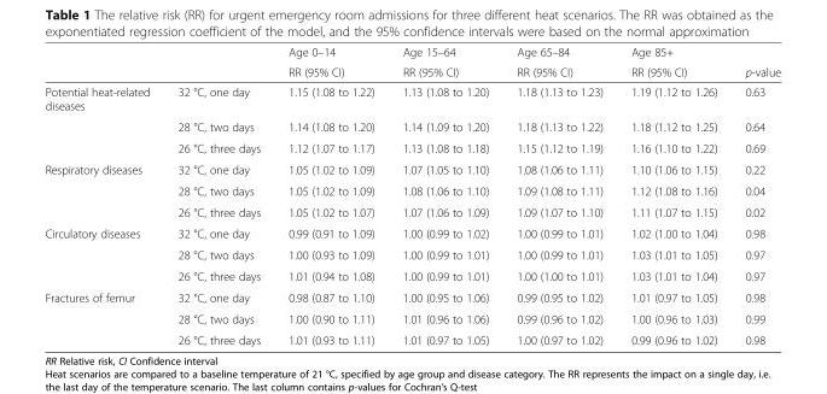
<table><thead><tr><td rowspan="2"></td><td rowspan="2"></td><td rowspan="2">Age 0–14 RR (95% CI)</td><td rowspan="2">Age 15–64 RR (95% CI)</td><td rowspan="2">Age 65–84 RR (95% CI)</td><td rowspan="2">Age 85+ RR (95% CI)</td><td rowspan="2">p-value</td></tr><tr></tr></thead><tbody><tr><td rowspan="3">Potential heat-related diseases</td><td>32 °C, one day</td><td>1.15 (1.08 to 1.22)</td><td>1.13 (1.08 to 1.20)</td><td>1.18 (1.13 to 1.23)</td><td>1.19 (1.12 to 1.26)</td><td>0.63</td></tr><tr><td>28 °C, two days</td><td>1.14 (1.08 to 1.20)</td><td>1.14 (1.09 to 1.20)</td><td>1.18 (1.13 to 1.22)</td><td>1.18 (1.12 to 1.25)</td><td>0.64</td></tr><tr><td>26 °C, three days</td><td>1.12 (1.07 to 1.17)</td><td>1.13 (1.08 to 1.18)</td><td>1.15 (1.12 to 1.19)</td><td>1.16 (1.10 to 1.22)</td><td>0.69</td></tr><tr><td rowspan="3">Respiratory diseases</td><td>32 °C, one day</td><td>1.05 (1.02 to 1.09)</td><td>1.07 (1.05 to 1.10)</td><td>1.08 (1.06 to 1.11)</td><td>1.10 (1.06 to 1.15)</td><td>0.22</td></tr><tr><td>28 °C, two days</td><td>1.05 (1.02 to 1.09)</td><td>1.08 (1.06 to 1.10)</td><td>1.09 (1.08 to 1.11)</td><td>1.12 (1.08 to 1.16)</td><td>0.04</td></tr><tr><td>26 °C, three days</td><td>1.05 (1.02 to 1.07)</td><td>1.07 (1.06 to 1.09)</td><td>1.09 (1.07 to 1.10)</td><td>1.11 (1.07 to 1.15)</td><td>0.02</td></tr><tr><td rowspan="3">Circulatory diseases</td><td>32 °C, one day</td><td>0.99 (0.91 to 1.09)</td><td>1.00 (0.99 to 1.02)</td><td>1.00 (0.99 to 1.01)</td><td>1.02 (1.00 to 1.04)</td><td>0.98</td></tr><tr><td>28 °C, two days</td><td>1.00 (0.93 to 1.09)</td><td>1.00 (0.99 to 1.01)</td><td>1.00 (0.99 to 1.01)</td><td>1.03 (1.01 to 1.05)</td><td>0.97</td></tr><tr><td>26 °C, three days</td><td>1.01 (0.94 to 1.08)</td><td>1.00 (0.99 to 1.01)</td><td>1.00 (1.00 to 1.01)</td><td>1.03 (1.01 to 1.04)</td><td>0.97</td></tr><tr><td rowspan="3">Fractures of femur</td><td>32 °C, one day</td><td>0.98 (0.87 to 1.10)</td><td>1.00 (0.95 to 1.06)</td><td>0.99 (0.95 to 1.02)</td><td>1.01 (0.97 to 1.05)</td><td>0.98</td></tr><tr><td>28 °C, two days</td><td>1.00 (0.90 to 1.11)</td><td>1.01 (0.96 to 1.06)</td><td>0.99 (0.96 to 1.02)</td><td>1.00 (0.96 to 1.03)</td><td>0.99</td></tr><tr><td>26 °C, three days</td><td>1.01 (0.93 to 1.11)</td><td>1.01 (0.97 to 1.05)</td><td>1.00 (0.97 to 1.02)</td><td>0.99 (0.96 to 1.02)</td><td>0.98</td></tr></tbody></table>